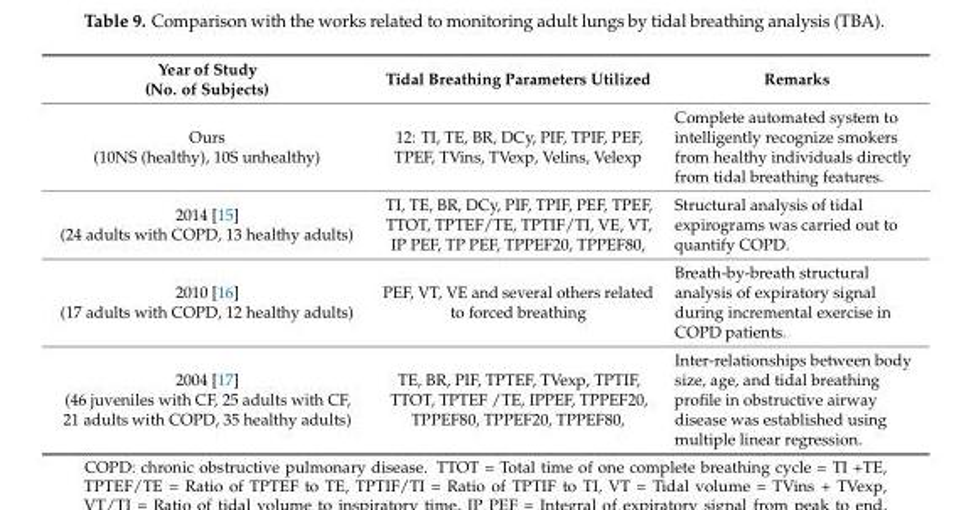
<table><thead><tr><td>Year of Study (No. of Subjects)</td><td>Tidal Breathing Parameters Utilized</td><td>Remarks</td></tr></thead><tbody><tr><td>Ours (10NS (healthy), 10S unhealthy)</td><td>12: TI, TE, BR, DCy, PIF, TPIF, PEF, TPEF, TVins, TVexp, Velins, Velexp</td><td>Complete automated system to intelligently recognize smokers from healthy individuals directly from tidal breathing features.</td></tr><tr><td>2014 [15] (24 adults with COPD, 13 healthy adults)</td><td>TI, TE, BR, DCy, PIF, TPIF, PEF, TPEF, TTOT, TPTEF/TE, TPTIF/TI, VE, VT, IP PEF, TP PEF, TPPEF20, TPPEF80,</td><td>Structural analysis of tidal expirograms was carried out to quantify COPD.</td></tr><tr><td>2010 [16] (17 adults with COPD, 12 healthy adults)</td><td>PEF, VT, VE and several others related to forced breathing</td><td>Breath-by-breath structural analysis of expiratory signal during incremental exercise in COPD patients.</td></tr><tr><td>2004 [17] (46 juveniles with CF, 25 adults with CF, 21 adults with COPD, 35 healthy adults)</td><td>TE, BR, PIF, TPTEF, TVexp, TPTIF, TTOT, TPTEF /TE, IPPEF, TPPEF20, TPPEF80, TPPEF20, TPPEF80,</td><td>Inter-relationships between body size, age, and tidal breathing profile in obstructive airway disease was established using multiple linear regression.</td></tr></tbody></table>